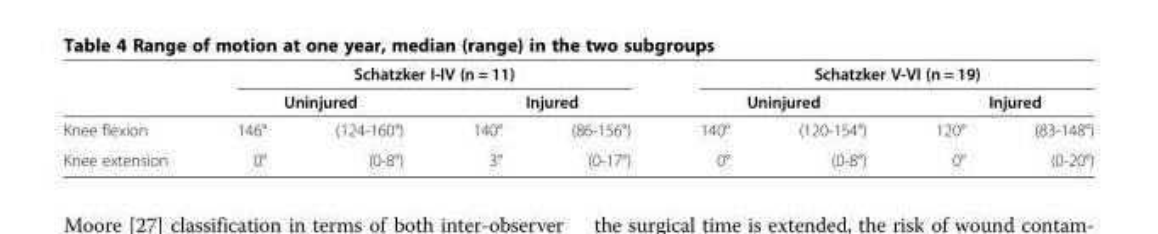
<table><thead><tr><td rowspan="3">Knee flexion</td><td colspan="4">Schatzker I-IV (n = 11)</td><td colspan="4">Schatzker V-VI (n = 19)</td></tr><tr><td colspan="2">Uninjured</td><td colspan="2">Injured</td><td colspan="2">Uninjured</td><td colspan="2">Injured</td></tr><tr><td>146°</td><td>(124-160°)</td><td>140°</td><td>(86-156°)</td><td>140°</td><td>(120-154°)</td><td>120°</td><td>(83-148°)</td></tr></thead><tbody><tr><td>Knee extension</td><td>0°</td><td>(0-8°)</td><td>3°</td><td>(0-17°)</td><td>0°</td><td>(0-8°)</td><td>0°</td><td>(0-20°)</td></tr></tbody></table>